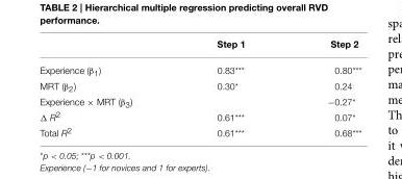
<table><thead><tr><td></td><td>Step 1</td><td>Step 2</td></tr></thead><tbody><tr><td>Experience (β<sub>1</sub>)</td><td>0.83***</td><td>0.80***</td></tr><tr><td>MRT (β<sub>2</sub>)</td><td>0.30*</td><td>0.24</td></tr><tr><td>Experience × MRT (β<sub>3</sub>)</td><td></td><td>−0.27*</td></tr><tr><td>Δ R<sup>2</sup></td><td>0.61***</td><td>0.07*</td></tr><tr><td>Total R<sup>2</sup></td><td>0.61***</td><td>0.68***</td></tr></tbody></table>